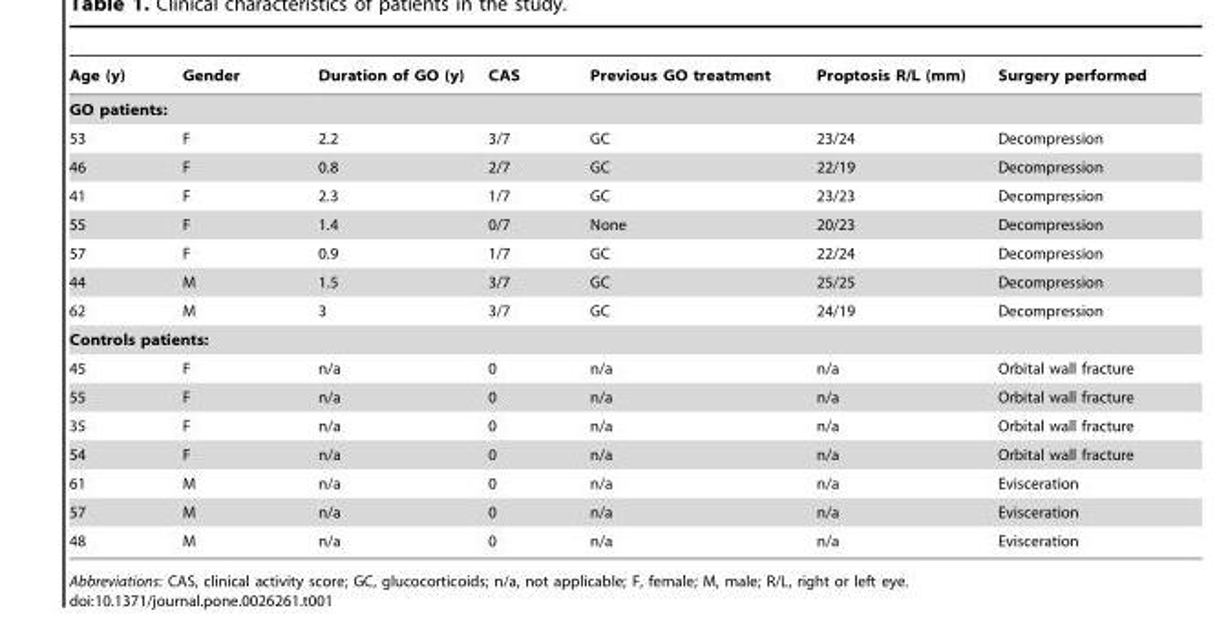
<table><thead><tr><td>Age (y)</td><td>Gender</td><td>Duration of GO (y)</td><td>CAS</td><td>Previous GO treatment</td><td>Proptosis R/L (mm)</td><td>Surgery performed</td></tr></thead><tbody><tr><td colspan="7">GO patients:</td></tr><tr><td>53</td><td>F</td><td>2.2</td><td>3/7</td><td>GC</td><td>23/24</td><td>Decompression</td></tr><tr><td>46</td><td>F</td><td>0.8</td><td>2/7</td><td>GC</td><td>22/19</td><td>Decompression</td></tr><tr><td>41</td><td>F</td><td>2.3</td><td>1/7</td><td>GC</td><td>23/23</td><td>Decompression</td></tr><tr><td>55</td><td>F</td><td>1.4</td><td>0/7</td><td>None</td><td>20/23</td><td>Decompression</td></tr><tr><td>57</td><td>F</td><td>0.9</td><td>1/7</td><td>GC</td><td>22/24</td><td>Decompression</td></tr><tr><td>44</td><td>M</td><td>1.5</td><td>3/7</td><td>GC</td><td>25/25</td><td>Decompression</td></tr><tr><td>62</td><td>M</td><td>3</td><td>3/7</td><td>GC</td><td>24/19</td><td>Decompression</td></tr><tr><td colspan="7">Controls patients:</td></tr><tr><td>45</td><td>F</td><td>n/a</td><td>0</td><td>n/a</td><td>n/a</td><td>Orbital wall fracture</td></tr><tr><td>55</td><td>F</td><td>n/a</td><td>0</td><td>n/a</td><td>n/a</td><td>Orbital wall fracture</td></tr><tr><td>35</td><td>F</td><td>n/a</td><td>0</td><td>n/a</td><td>n/a</td><td>Orbital wall fracture</td></tr><tr><td>54</td><td>F</td><td>n/a</td><td>0</td><td>n/a</td><td>n/a</td><td>Orbital wall fracture</td></tr><tr><td>61</td><td>M</td><td>n/a</td><td>0</td><td>n/a</td><td>n/a</td><td>Evisceration</td></tr><tr><td>57</td><td>M</td><td>n/a</td><td>0</td><td>n/a</td><td>n/a</td><td>Evisceration</td></tr><tr><td>48</td><td>M</td><td>n/a</td><td>0</td><td>n/a</td><td>n/a</td><td>Evisceration</td></tr></tbody></table>